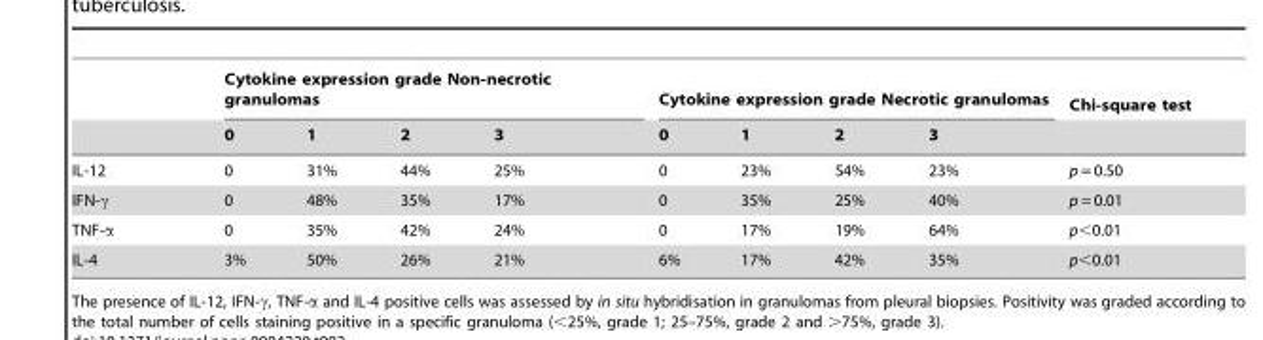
<table><thead><tr><td rowspan="2"></td><td colspan="4">Cytokine expression grade Non-necrotic granulomas</td><td colspan="4">Cytokine expression grade Necrotic granulomas</td><td rowspan="2">Chi-square test</td></tr><tr><td>0</td><td>1</td><td>2</td><td>3</td><td>0</td><td>1</td><td>2</td><td>3</td></tr></thead><tbody><tr><td>IL-12</td><td>0</td><td>31%</td><td>44%</td><td>25%</td><td>0</td><td>23%</td><td>54%</td><td>23%</td><td>p = 0.50</td></tr><tr><td>IFN-γ</td><td>0</td><td>48%</td><td>35%</td><td>17%</td><td>0</td><td>35%</td><td>25%</td><td>40%</td><td>p = 0.01</td></tr><tr><td>TNF-α</td><td>0</td><td>35%</td><td>42%</td><td>24%</td><td>0</td><td>17%</td><td>19%</td><td>64%</td><td>p&lt;0.01</td></tr><tr><td>IL-4</td><td>3%</td><td>50%</td><td>26%</td><td>21%</td><td>6%</td><td>17%</td><td>42%</td><td>35%</td><td>p&lt;0.01</td></tr></tbody></table>